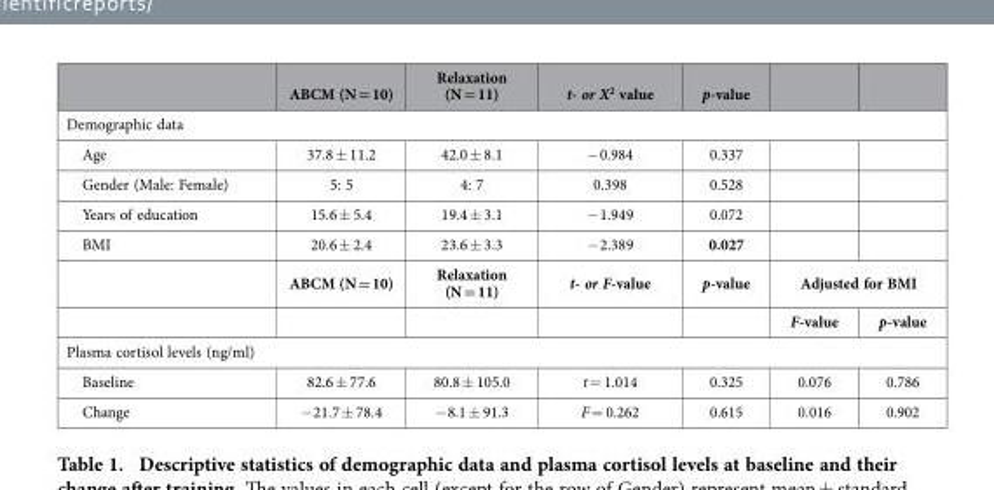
<table><thead><tr><td></td><td>ABCM (N = 10)</td><td>Relaxation (N = 11)</td><td>t- or X<sup>2</sup> value</td><td>p-value</td><td></td><td></td></tr></thead><tbody><tr><td colspan="7">Demographic data</td></tr><tr><td>Age</td><td>37.8 ± 11.2</td><td>42.0 ± 8.1</td><td>− 0.984</td><td>0.337</td><td></td><td></td></tr><tr><td>Gender (Male: Female)</td><td>5: 5</td><td>4: 7</td><td>0.398</td><td>0.528</td><td></td><td></td></tr><tr><td>Years of education</td><td>15.6 ± 5.4</td><td>19.4 ± 3.1</td><td>− 1.949</td><td>0.072</td><td></td><td></td></tr><tr><td rowspan="3">BMI</td><td>20.6 ± 2.4</td><td>23.6 ± 3.3</td><td>− 2.389</td><td>0.027</td><td></td><td></td></tr><tr><td>ABCM (N = 10)</td><td>Relaxation (N = 11)</td><td>t- or F-value</td><td>p-value</td><td colspan="2">Adjusted for BMI</td></tr><tr><td></td><td></td><td></td><td></td><td>F-value</td><td>p-value</td></tr><tr><td colspan="7">Plasma cortisol levels (ng/ml)</td></tr><tr><td>Baseline</td><td>82.6 ± 77.6</td><td>80.8 ± 105.0</td><td>t = 1.014</td><td>0.325</td><td>0.076</td><td>0.786</td></tr><tr><td>Change</td><td>− 21.7 ± 78.4</td><td>− 8.1 ± 91.3</td><td>F = 0.262</td><td>0.615</td><td>0.016</td><td>0.902</td></tr></tbody></table>